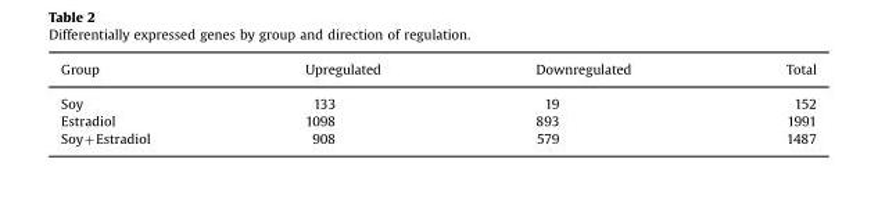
<table><thead><tr><td>Group</td><td>Upregulated</td><td>Downregulated</td><td>Total</td></tr></thead><tbody><tr><td>Soy</td><td>133</td><td>19</td><td>152</td></tr><tr><td>Estradiol</td><td>1098</td><td>893</td><td>1991</td></tr><tr><td>Soy+Estradiol</td><td>908</td><td>579</td><td>1487</td></tr></tbody></table>